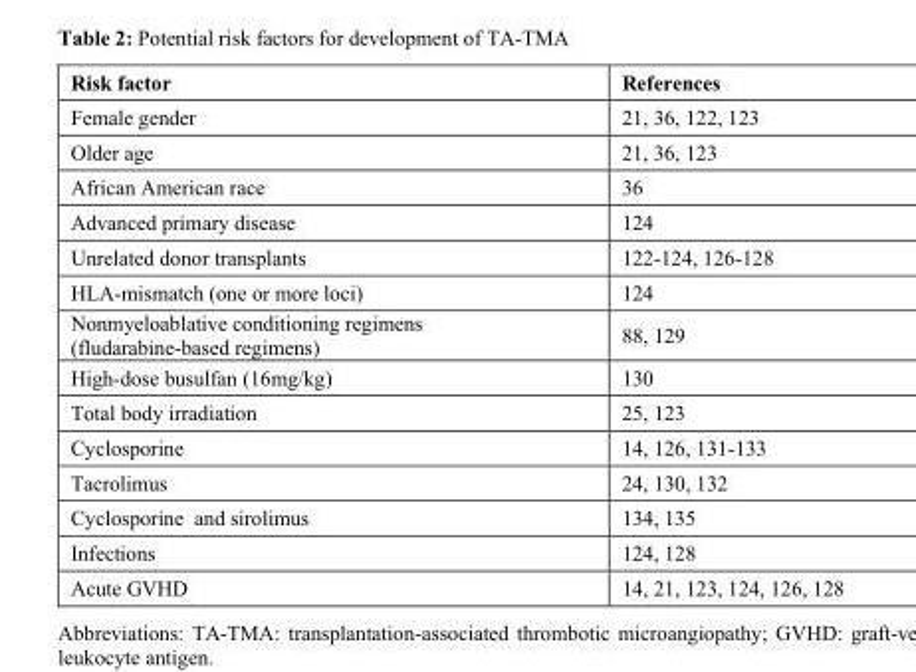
<table><thead><tr><td>Risk factor</td><td>References</td></tr></thead><tbody><tr><td>Female gender</td><td>21, 36, 122, 123</td></tr><tr><td>Older age</td><td>21, 36, 123</td></tr><tr><td>African American race</td><td>36</td></tr><tr><td>Advanced primary disease</td><td>124</td></tr><tr><td>Unrelated donor transplants</td><td>122-124, 126-128</td></tr><tr><td>HLA-mismatch (one or more loci)</td><td>124</td></tr><tr><td>Nonmyeloablative conditioning regimens (fludarabine-based regimens)</td><td>88, 129</td></tr><tr><td>High-dose busulfan (16mg/kg)</td><td>130</td></tr><tr><td>Total body irradiation</td><td>25, 123</td></tr><tr><td>Cyclosporine</td><td>14, 126, 131-133</td></tr><tr><td>Tacrolimus</td><td>24, 130, 132</td></tr><tr><td>Cyclosporine and sirolimus</td><td>134, 135</td></tr><tr><td>Infections</td><td>124, 128</td></tr><tr><td>Acute GVHD</td><td>14, 21, 123, 124, 126, 128</td></tr></tbody></table>